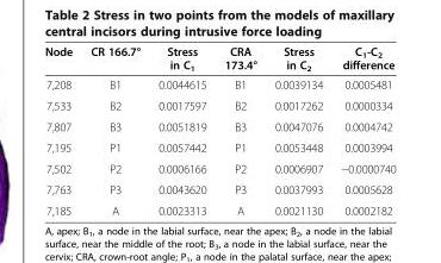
<table><thead><tr><td>Node</td><td>CR 166.7°</td><td>Stress in C<sub>1</sub></td><td>CRA 173.4°</td><td>Stress in C<sub>2</sub></td><td>C<sub>1</sub>-C<sub>2</sub> difference</td></tr></thead><tbody><tr><td>7,208</td><td>B1</td><td>0.0044615</td><td>B1</td><td>0.0039134</td><td>0.0005481</td></tr><tr><td>7,533</td><td>B2</td><td>0.0017597</td><td>B2</td><td>0.0017262</td><td>0.0000334</td></tr><tr><td>7,807</td><td>B3</td><td>0.0051819</td><td>B3</td><td>0.0047076</td><td>0.0004742</td></tr><tr><td>7,195</td><td>P1</td><td>0.0057442</td><td>P1</td><td>0.0053448</td><td>0.0003994</td></tr><tr><td>7,502</td><td>P2</td><td>0.0006166</td><td>P2</td><td>0.0006907</td><td>−0.0000740</td></tr><tr><td>7,763</td><td>P3</td><td>0.0043620</td><td>P3</td><td>0.0037993</td><td>0.0005628</td></tr><tr><td>7,185</td><td>A</td><td>0.0023313</td><td>A</td><td>0.0021130</td><td>0.0002182</td></tr></tbody></table>